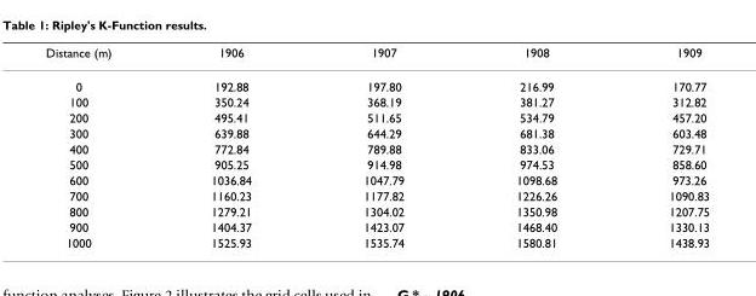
<table><thead><tr><td>Distance (m)</td><td>1906</td><td>1907</td><td>1908</td><td>1909</td></tr></thead><tbody><tr><td>0</td><td>192.88</td><td>197.80</td><td>216.99</td><td>170.77</td></tr><tr><td>100</td><td>350.24</td><td>368.19</td><td>381.27</td><td>312.82</td></tr><tr><td>200</td><td>495.41</td><td>511.65</td><td>534.79</td><td>457.20</td></tr><tr><td>300</td><td>639.88</td><td>644.29</td><td>681.38</td><td>603.48</td></tr><tr><td>400</td><td>772.84</td><td>789.88</td><td>833.06</td><td>729.71</td></tr><tr><td>500</td><td>905.25</td><td>914.98</td><td>974.53</td><td>858.60</td></tr><tr><td>600</td><td>1036.84</td><td>1047.79</td><td>1098.68</td><td>973.26</td></tr><tr><td>700</td><td>1160.23</td><td>1177.82</td><td>1226.26</td><td>1090.83</td></tr><tr><td>800</td><td>1279.21</td><td>1304.02</td><td>1350.98</td><td>1207.75</td></tr><tr><td>900</td><td>1404.37</td><td>1423.07</td><td>1468.40</td><td>1330.13</td></tr><tr><td>1000</td><td>1525.93</td><td>1535.74</td><td>1580.81</td><td>1438.93</td></tr></tbody></table>